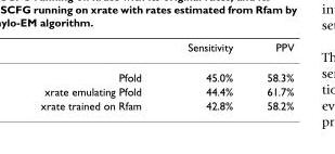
<table><thead><tr><td></td><td>Sensitivity</td><td>PPV</td></tr></thead><tbody><tr><td>Pfold</td><td>45.0%</td><td>58.3%</td></tr><tr><td>xrate emulating Pfold</td><td>44.4%</td><td>61.7%</td></tr><tr><td>xrate trained on Rfam</td><td>42.8%</td><td>58.2%</td></tr></tbody></table>